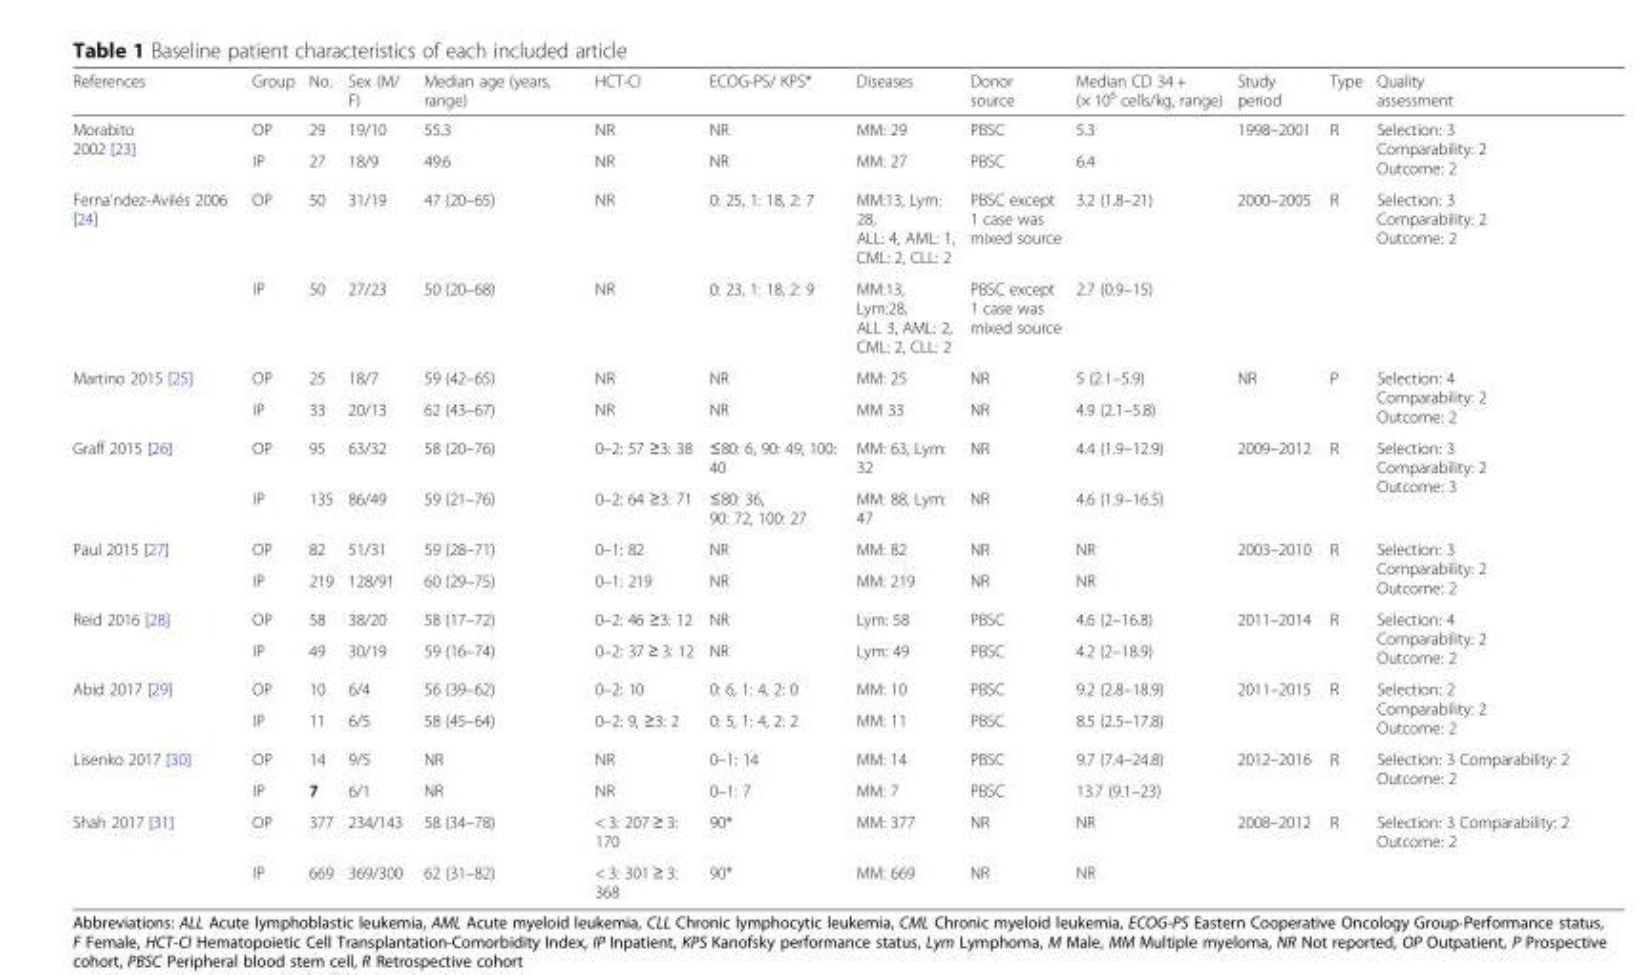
<table><thead><tr><td>References</td><td>Group</td><td>No.</td><td>Sex (M/ F)</td><td>Median age (years, range)</td><td>HCT-CI</td><td>ECOG-PS/ KPS*</td><td>Diseases</td><td>Donor source</td><td>Median CD 34 + (× 10<sup>6</sup> cells/kg, range)</td><td>Study period</td><td>Type</td><td>Quality assessment</td></tr></thead><tbody><tr><td rowspan="2">Morabito 2002 [23]</td><td>OP</td><td>29</td><td>19/10</td><td>55.3</td><td>NR</td><td>NR</td><td>MM: 29</td><td>PBSC</td><td>5.3</td><td rowspan="2">1998–2001</td><td rowspan="2">R</td><td rowspan="2">Selection: 3 Comparability: 2 Outcome: 2</td></tr><tr><td>IP</td><td>27</td><td>18/9</td><td>49.6</td><td>NR</td><td>NR</td><td>MM: 27</td><td>PBSC</td><td>6.4</td></tr><tr><td rowspan="2">Ferna’ndez-Avilés 2006 [24]</td><td>OP</td><td>50</td><td>31/19</td><td>47 (20–65)</td><td>NR</td><td>0: 25, 1: 18, 2: 7</td><td>MM:13, Lym: 28, ALL: 4, AML: 1, CML: 2, CLL: 2</td><td>PBSC except 1 case was mixed source</td><td>3.2 (1.8–21)</td><td rowspan="2">2000–2005</td><td rowspan="2">R</td><td rowspan="2">Selection: 3 Comparability: 2 Outcome: 2</td></tr><tr><td>IP</td><td>50</td><td>27/23</td><td>50 (20–68)</td><td>NR</td><td>0: 23, 1: 18, 2: 9</td><td>MM:13, Lym:28, ALL 3, AML: 2, CML: 2, CLL: 2</td><td>PBSC except 1 case was mixed source</td><td>2.7 (0.9–15)</td></tr><tr><td rowspan="2">Martino 2015 [25]</td><td>OP</td><td>25</td><td>18/7</td><td>59 (42–65)</td><td>NR</td><td>NR</td><td>MM: 25</td><td>NR</td><td>5 (2.1–5.9)</td><td rowspan="2">NR</td><td rowspan="2">P</td><td rowspan="2">Selection: 4 Comparability: 2 Outcome: 2</td></tr><tr><td>IP</td><td>33</td><td>20/13</td><td>62 (43–67)</td><td>NR</td><td>NR</td><td>MM 33</td><td>NR</td><td>4.9 (2.1–5.8)</td></tr><tr><td rowspan="2">Graff 2015 [26]</td><td>OP</td><td>95</td><td>63/32</td><td>58 (20–76)</td><td>0–2: 57 ≥3: 38</td><td>≤80: 6, 90: 49, 100: 40</td><td>MM: 63, Lym: 32</td><td>NR</td><td>4.4 (1.9–12.9)</td><td rowspan="2">2009–2012</td><td rowspan="2">R</td><td rowspan="2">Selection: 3 Comparability: 2 Outcome: 3</td></tr><tr><td>IP</td><td>135</td><td>86/49</td><td>59 (21–76)</td><td>0–2: 64 ≥3: 71</td><td>≤80: 36, 90: 72, 100: 27</td><td>MM: 88, Lym: 47</td><td>NR</td><td>4.6 (1.9–16.5)</td></tr><tr><td rowspan="2">Paul 2015 [27]</td><td>OP</td><td>82</td><td>51/31</td><td>59 (28–71)</td><td>0–1: 82</td><td>NR</td><td>MM: 82</td><td>NR</td><td>NR</td><td rowspan="2">2003–2010</td><td rowspan="2">R</td><td rowspan="2">Selection: 3 Comparability: 2 Outcome: 2</td></tr><tr><td>IP</td><td>219</td><td>128/91</td><td>60 (29–75)</td><td>0–1: 219</td><td>NR</td><td>MM: 219</td><td>NR</td><td>NR</td></tr><tr><td rowspan="2">Reid 2016 [28]</td><td>OP</td><td>58</td><td>38/20</td><td>58 (17–72)</td><td>0–2: 46 ≥3: 12</td><td>NR</td><td>Lym: 58</td><td>PBSC</td><td>4.6 (2–16.8)</td><td rowspan="2">2011–2014</td><td rowspan="2">R</td><td rowspan="2">Selection: 4 Comparability: 2 Outcome: 2</td></tr><tr><td>IP</td><td>49</td><td>30/19</td><td>59 (16–74)</td><td>0–2: 37 ≥ 3: 12</td><td>NR</td><td>Lym: 49</td><td>PBSC</td><td>4.2 (2–18.9)</td></tr><tr><td rowspan="2">Abid 2017 [29]</td><td>OP</td><td>10</td><td>6/4</td><td>56 (39–62)</td><td>0–2: 10</td><td>0: 6, 1: 4, 2: 0</td><td>MM: 10</td><td>PBSC</td><td>9.2 (2.8–18.9)</td><td rowspan="2">2011–2015</td><td rowspan="2">R</td><td rowspan="2">Selection: 2 Comparability: 2 Outcome: 2</td></tr><tr><td>IP</td><td>11</td><td>6/5</td><td>58 (45–64)</td><td>0–2: 9, ≥3: 2</td><td>0: 5, 1: 4, 2: 2</td><td>MM: 11</td><td>PBSC</td><td>8.5 (2.5–17.8)</td></tr><tr><td rowspan="2">Lisenko 2017 [30]</td><td>OP</td><td>14</td><td>9/5</td><td>NR</td><td>NR</td><td>0–1: 14</td><td>MM: 14</td><td>PBSC</td><td>9.7 (7.4–24.8)</td><td rowspan="2">2012–2016</td><td rowspan="2">R</td><td rowspan="2">Selection: 3 Comparability: 2 Outcome: 2</td></tr><tr><td>IP</td><td>7</td><td>6/1</td><td>NR</td><td>NR</td><td>0–1: 7</td><td>MM: 7</td><td>PBSC</td><td>13.7 (9.1–23)</td></tr><tr><td rowspan="2">Shah 2017 [31]</td><td>OP</td><td>377</td><td>234/143</td><td>58 (34–78)</td><td>&lt; 3: 207 ≥ 3: 170</td><td>90*</td><td>MM: 377</td><td>NR</td><td>NR</td><td rowspan="2">2008–2012</td><td rowspan="2">R</td><td rowspan="2">Selection: 3 Comparability: 2 Outcome: 2</td></tr><tr><td>IP</td><td>669</td><td>369/300</td><td>62 (31–82)</td><td>&lt; 3: 301 ≥ 3: 368</td><td>90*</td><td>MM: 669</td><td>NR</td><td>NR</td></tr></tbody></table>